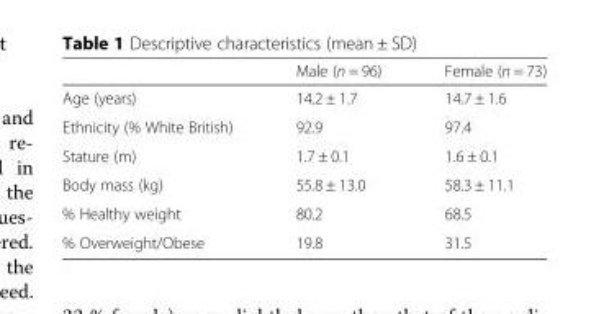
<table><thead><tr><td></td><td>Male (n = 96)</td><td>Female (n = 73)</td></tr></thead><tbody><tr><td>Age (years)</td><td>14.2 ± 1.7</td><td>14.7 ± 1.6</td></tr><tr><td>Ethnicity (% White British)</td><td>92.9</td><td>97.4</td></tr><tr><td>Stature (m)</td><td>1.7 ± 0.1</td><td>1.6 ± 0.1</td></tr><tr><td>Body mass (kg)</td><td>55.8 ± 13.0</td><td>58.3 ± 11.1</td></tr><tr><td>% Healthy weight</td><td>80.2</td><td>68.5</td></tr><tr><td>% Overweight/Obese</td><td>19.8</td><td>31.5</td></tr></tbody></table>